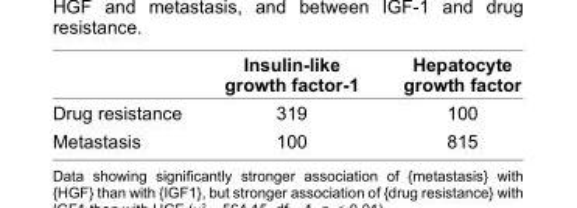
<table><thead><tr><td></td><td>Insulin-like growth factor-1</td><td>Hepatocyte growth factor</td></tr></thead><tbody><tr><td>Drug resistance</td><td>319</td><td>100</td></tr><tr><td>Metastasis</td><td>100</td><td>815</td></tr></tbody></table>